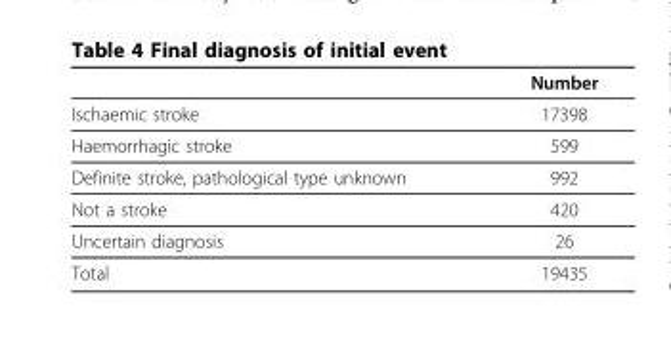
<table><thead><tr><td></td><td>Number</td></tr></thead><tbody><tr><td>Ischaemic stroke</td><td>17398</td></tr><tr><td>Haemorrhagic stroke</td><td>599</td></tr><tr><td>Definite stroke, pathological type unknown</td><td>992</td></tr><tr><td>Not a stroke</td><td>420</td></tr><tr><td>Uncertain diagnosis</td><td>26</td></tr><tr><td>Total</td><td>19435</td></tr></tbody></table>